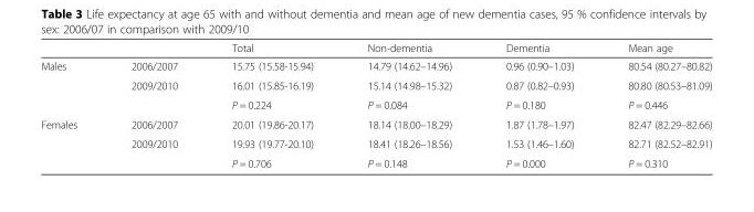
<table><thead><tr><td></td><td></td><td>Total</td><td>Non-dementia</td><td>Dementia</td><td>Mean age</td></tr></thead><tbody><tr><td rowspan="3">Males</td><td>2006/2007</td><td>15.75 (15.58-15.94)</td><td>14.79 (14.62–14.96)</td><td>0.96 (0.90–1.03)</td><td>80.54 (80.27–80.82)</td></tr><tr><td>2009/2010</td><td>16.01 (15.85-16.19)</td><td>15.14 (14.98–15.32)</td><td>0.87 (0.82–0.93)</td><td>80.80 (80.53–81.09)</td></tr><tr><td></td><td>P = 0.224</td><td>P = 0.084</td><td>P = 0.180</td><td>P = 0.446</td></tr><tr><td rowspan="3">Females</td><td>2006/2007</td><td>20.01 (19.86-20.17)</td><td>18.14 (18.00–18.29)</td><td>1.87 (1.78–1.97)</td><td>82.47 (82.29–82.66)</td></tr><tr><td>2009/2010</td><td>19.93 (19.77-20.10)</td><td>18.41 (18.26–18.56)</td><td>1.53 (1.46–1.60)</td><td>82.71 (82.52–82.91)</td></tr><tr><td></td><td>P = 0.706</td><td>P = 0.148</td><td>P = 0.000</td><td>P = 0.310</td></tr></tbody></table>